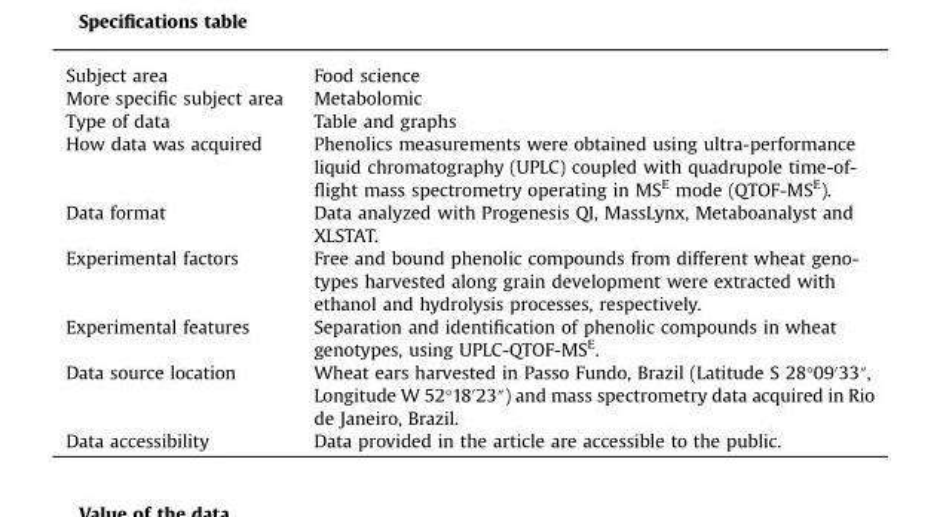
<table><tbody><tr><td>Subject area</td><td>Food science</td></tr><tr><td>More specific subject area</td><td>Metabolomic</td></tr><tr><td>Type of data</td><td>Table and graphs</td></tr><tr><td>How data was acquired</td><td>Phenolics measurements were obtained using ultra-performance liquid chromatography (UPLC) coupled with quadrupole time-of- flight mass spectrometry operating in MS<sup>E</sup> mode (QTOF-MS<sup>E</sup>).</td></tr><tr><td>Data format</td><td>Data analyzed with Progenesis QI, MassLynx, Metaboanalyst and XLSTAT.</td></tr><tr><td>Experimental factors</td><td>Free and bound phenolic compounds from different wheat geno- types harvested along grain development were extracted with ethanol and hydrolysis processes, respectively.</td></tr><tr><td>Experimental features</td><td>Separation and identification of phenolic compounds in wheat genotypes, using UPLC-QTOF-MS<sup>E</sup>.</td></tr><tr><td>Data source location</td><td>Wheat ears harvested in Passo Fundo, Brazil (Latitude S 28°09′33″, Longitude W 52°18′23″) and mass spectrometry data acquired in Rio de Janeiro, Brazil.</td></tr><tr><td>Data accessibility</td><td>Data provided in the article are accessible to the public.</td></tr></tbody></table>